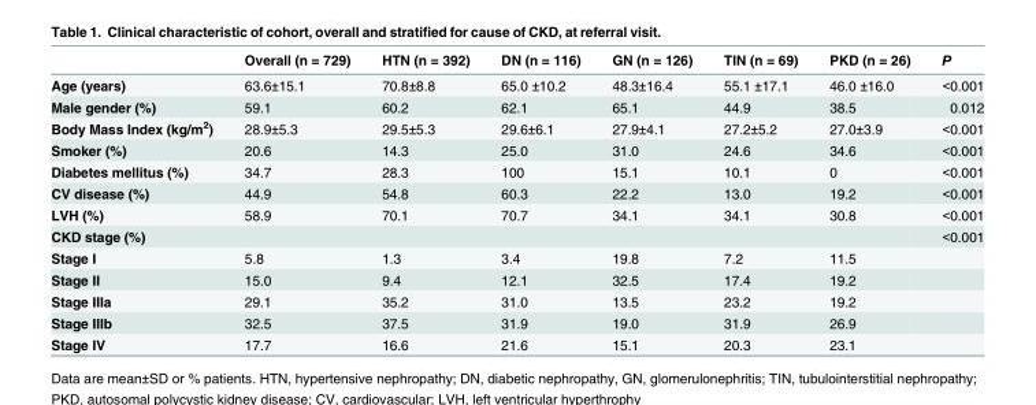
<table><thead><tr><td></td><td>Overall (n = 729)</td><td>HTN (n = 392)</td><td>DN (n = 116)</td><td>GN (n = 126)</td><td>TIN (n = 69)</td><td>PKD (n = 26)</td><td>P</td></tr></thead><tbody><tr><td>Age (years)</td><td>63.6±15.1</td><td>70.8±8.8</td><td>65.0 ±10.2</td><td>48.3±16.4</td><td>55.1 ±17.1</td><td>46.0 ±16.0</td><td>&lt;0.001</td></tr><tr><td>Male gender (%)</td><td>59.1</td><td>60.2</td><td>62.1</td><td>65.1</td><td>44.9</td><td>38.5</td><td>0.012</td></tr><tr><td>Body Mass Index (kg/m<sup>2</sup>)</td><td>28.9±5.3</td><td>29.5±5.3</td><td>29.6±6.1</td><td>27.9±4.1</td><td>27.2±5.2</td><td>27.0±3.9</td><td>&lt;0.001</td></tr><tr><td>Smoker (%)</td><td>20.6</td><td>14.3</td><td>25.0</td><td>31.0</td><td>24.6</td><td>34.6</td><td>&lt;0.001</td></tr><tr><td>Diabetes mellitus (%)</td><td>34.7</td><td>28.3</td><td>100</td><td>15.1</td><td>10.1</td><td>0</td><td>&lt;0.001</td></tr><tr><td>CV disease (%)</td><td>44.9</td><td>54.8</td><td>60.3</td><td>22.2</td><td>13.0</td><td>19.2</td><td>&lt;0.001</td></tr><tr><td>LVH (%)</td><td>58.9</td><td>70.1</td><td>70.7</td><td>34.1</td><td>34.1</td><td>30.8</td><td>&lt;0.001</td></tr><tr><td>CKD stage (%)</td><td></td><td></td><td></td><td></td><td></td><td></td><td>&lt;0.001</td></tr><tr><td>Stage I</td><td>5.8</td><td>1.3</td><td>3.4</td><td>19.8</td><td>7.2</td><td>11.5</td><td></td></tr><tr><td>Stage II</td><td>15.0</td><td>9.4</td><td>12.1</td><td>32.5</td><td>17.4</td><td>19.2</td><td></td></tr><tr><td>Stage IIIa</td><td>29.1</td><td>35.2</td><td>31.0</td><td>13.5</td><td>23.2</td><td>19.2</td><td></td></tr><tr><td>Stage IIIb</td><td>32.5</td><td>37.5</td><td>31.9</td><td>19.0</td><td>31.9</td><td>26.9</td><td></td></tr><tr><td>Stage IV</td><td>17.7</td><td>16.6</td><td>21.6</td><td>15.1</td><td>20.3</td><td>23.1</td><td></td></tr></tbody></table>